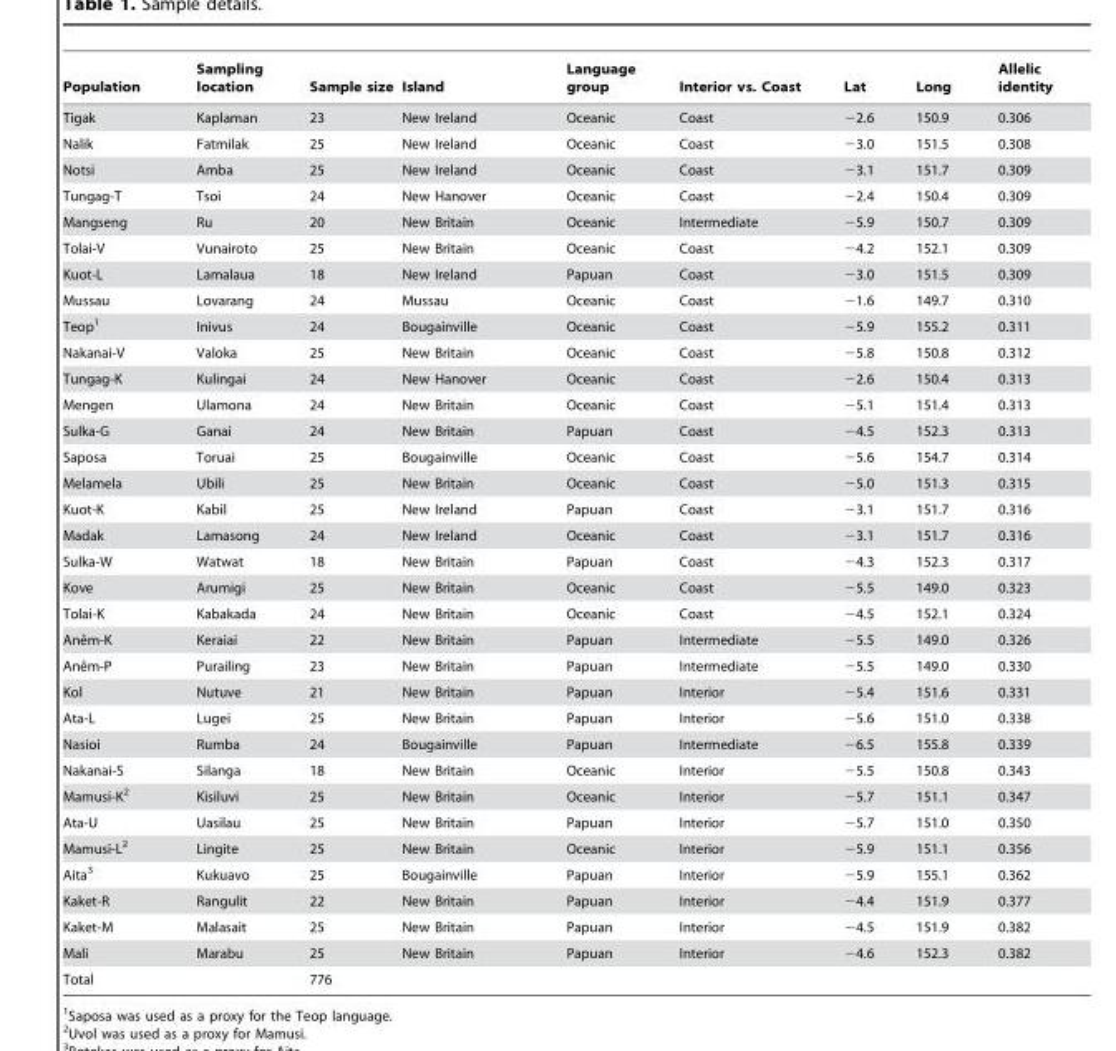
<table><thead><tr><td>Population</td><td>Sampling location</td><td>Sample size</td><td>Island</td><td>Language group</td><td>Interior vs. Coast</td><td>Lat</td><td>Long</td><td>Allelic identity</td></tr></thead><tbody><tr><td>Tigak</td><td>Kaplaman</td><td>23</td><td>New Ireland</td><td>Oceanic</td><td>Coast</td><td>−2.6</td><td>150.9</td><td>0.306</td></tr><tr><td>Nalik</td><td>Fatmilak</td><td>25</td><td>New Ireland</td><td>Oceanic</td><td>Coast</td><td>−3.0</td><td>151.5</td><td>0.308</td></tr><tr><td>Notsi</td><td>Amba</td><td>25</td><td>New Ireland</td><td>Oceanic</td><td>Coast</td><td>−3.1</td><td>151.7</td><td>0.309</td></tr><tr><td>Tungag-T</td><td>Tsoi</td><td>24</td><td>New Hanover</td><td>Oceanic</td><td>Coast</td><td>−2.4</td><td>150.4</td><td>0.309</td></tr><tr><td>Mangseng</td><td>Ru</td><td>20</td><td>New Britain</td><td>Oceanic</td><td>Intermediate</td><td>−5.9</td><td>150.7</td><td>0.309</td></tr><tr><td>Tolai-V</td><td>Vunairoto</td><td>25</td><td>New Britain</td><td>Oceanic</td><td>Coast</td><td>−4.2</td><td>152.1</td><td>0.309</td></tr><tr><td>Kuot-L</td><td>Lamalaua</td><td>18</td><td>New Ireland</td><td>Papuan</td><td>Coast</td><td>−3.0</td><td>151.5</td><td>0.309</td></tr><tr><td>Mussau</td><td>Lovarang</td><td>24</td><td>Mussau</td><td>Oceanic</td><td>Coast</td><td>−1.6</td><td>149.7</td><td>0.310</td></tr><tr><td>Teop<sup>1</sup></td><td>Inivus</td><td>24</td><td>Bougainville</td><td>Oceanic</td><td>Coast</td><td>−5.9</td><td>155.2</td><td>0.311</td></tr><tr><td>Nakanai-V</td><td>Valoka</td><td>25</td><td>New Britain</td><td>Oceanic</td><td>Coast</td><td>−5.8</td><td>150.8</td><td>0.312</td></tr><tr><td>Tungag-K</td><td>Kulingai</td><td>24</td><td>New Hanover</td><td>Oceanic</td><td>Coast</td><td>−2.6</td><td>150.4</td><td>0.313</td></tr><tr><td>Mengen</td><td>Ulamona</td><td>24</td><td>New Britain</td><td>Oceanic</td><td>Coast</td><td>−5.1</td><td>151.4</td><td>0.313</td></tr><tr><td>Sulka-G</td><td>Ganai</td><td>24</td><td>New Britain</td><td>Papuan</td><td>Coast</td><td>−4.5</td><td>152.3</td><td>0.313</td></tr><tr><td>Saposa</td><td>Toruai</td><td>25</td><td>Bougainville</td><td>Oceanic</td><td>Coast</td><td>−5.6</td><td>154.7</td><td>0.314</td></tr><tr><td>Melamela</td><td>Ubili</td><td>25</td><td>New Britain</td><td>Oceanic</td><td>Coast</td><td>−5.0</td><td>151.3</td><td>0.315</td></tr><tr><td>Kuot-K</td><td>Kabil</td><td>25</td><td>New Ireland</td><td>Papuan</td><td>Coast</td><td>−3.1</td><td>151.7</td><td>0.316</td></tr><tr><td>Madak</td><td>Lamasong</td><td>24</td><td>New Ireland</td><td>Oceanic</td><td>Coast</td><td>−3.1</td><td>151.7</td><td>0.316</td></tr><tr><td>Sulka-W</td><td>Watwat</td><td>18</td><td>New Britain</td><td>Papuan</td><td>Coast</td><td>−4.3</td><td>152.3</td><td>0.317</td></tr><tr><td>Kove</td><td>Arumigi</td><td>25</td><td>New Britain</td><td>Oceanic</td><td>Coast</td><td>−5.5</td><td>149.0</td><td>0.323</td></tr><tr><td>Tolai-K</td><td>Kabakada</td><td>24</td><td>New Britain</td><td>Oceanic</td><td>Coast</td><td>−4.5</td><td>152.1</td><td>0.324</td></tr><tr><td>Aneˆm-K</td><td>Keraiai</td><td>22</td><td>New Britain</td><td>Papuan</td><td>Intermediate</td><td>−5.5</td><td>149.0</td><td>0.326</td></tr><tr><td>Aneˆm-P</td><td>Purailing</td><td>23</td><td>New Britain</td><td>Papuan</td><td>Intermediate</td><td>−5.5</td><td>149.0</td><td>0.330</td></tr><tr><td>Kol</td><td>Nutuve</td><td>21</td><td>New Britain</td><td>Papuan</td><td>Interior</td><td>−5.4</td><td>151.6</td><td>0.331</td></tr><tr><td>Ata-L</td><td>Lugei</td><td>25</td><td>New Britain</td><td>Papuan</td><td>Interior</td><td>−5.6</td><td>151.0</td><td>0.338</td></tr><tr><td>Nasioi</td><td>Rumba</td><td>24</td><td>Bougainville</td><td>Papuan</td><td>Intermediate</td><td>−6.5</td><td>155.8</td><td>0.339</td></tr><tr><td>Nakanai-S</td><td>Silanga</td><td>18</td><td>New Britain</td><td>Oceanic</td><td>Interior</td><td>−5.5</td><td>150.8</td><td>0.343</td></tr><tr><td>Mamusi-K<sup>2</sup></td><td>Kisiluvi</td><td>25</td><td>New Britain</td><td>Oceanic</td><td>Interior</td><td>−5.7</td><td>151.1</td><td>0.347</td></tr><tr><td>Ata-U</td><td>Uasilau</td><td>25</td><td>New Britain</td><td>Papuan</td><td>Interior</td><td>−5.7</td><td>151.0</td><td>0.350</td></tr><tr><td>Mamusi-L<sup>2</sup></td><td>Lingite</td><td>25</td><td>New Britain</td><td>Oceanic</td><td>Interior</td><td>−5.9</td><td>151.1</td><td>0.356</td></tr><tr><td>Aita<sup>3</sup></td><td>Kukuavo</td><td>25</td><td>Bougainville</td><td>Papuan</td><td>Interior</td><td>−5.9</td><td>155.1</td><td>0.362</td></tr><tr><td>Kaket-R</td><td>Rangulit</td><td>22</td><td>New Britain</td><td>Papuan</td><td>Interior</td><td>−4.4</td><td>151.9</td><td>0.377</td></tr><tr><td>Kaket-M</td><td>Malasait</td><td>25</td><td>New Britain</td><td>Papuan</td><td>Interior</td><td>−4.5</td><td>151.9</td><td>0.382</td></tr><tr><td>Mali</td><td>Marabu</td><td>25</td><td>New Britain</td><td>Papuan</td><td>Interior</td><td>−4.6</td><td>152.3</td><td>0.382</td></tr><tr><td>Total</td><td></td><td>776</td><td></td><td></td><td></td><td></td><td></td><td></td></tr></tbody></table>